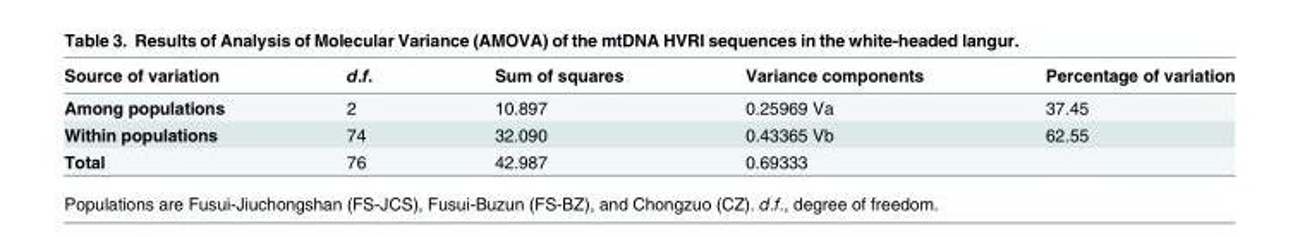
<table><thead><tr><td>Source of variation</td><td>d.f.</td><td>Sum of squares</td><td>Variance components</td><td>Percentage of variation</td></tr></thead><tbody><tr><td>Among populations</td><td>2</td><td>10.897</td><td>0.25969 Va</td><td>37.45</td></tr><tr><td>Within populations</td><td>74</td><td>32.090</td><td>0.43365 Vb</td><td>62.55</td></tr><tr><td>Total</td><td>76</td><td>42.987</td><td>0.69333</td><td></td></tr></tbody></table>